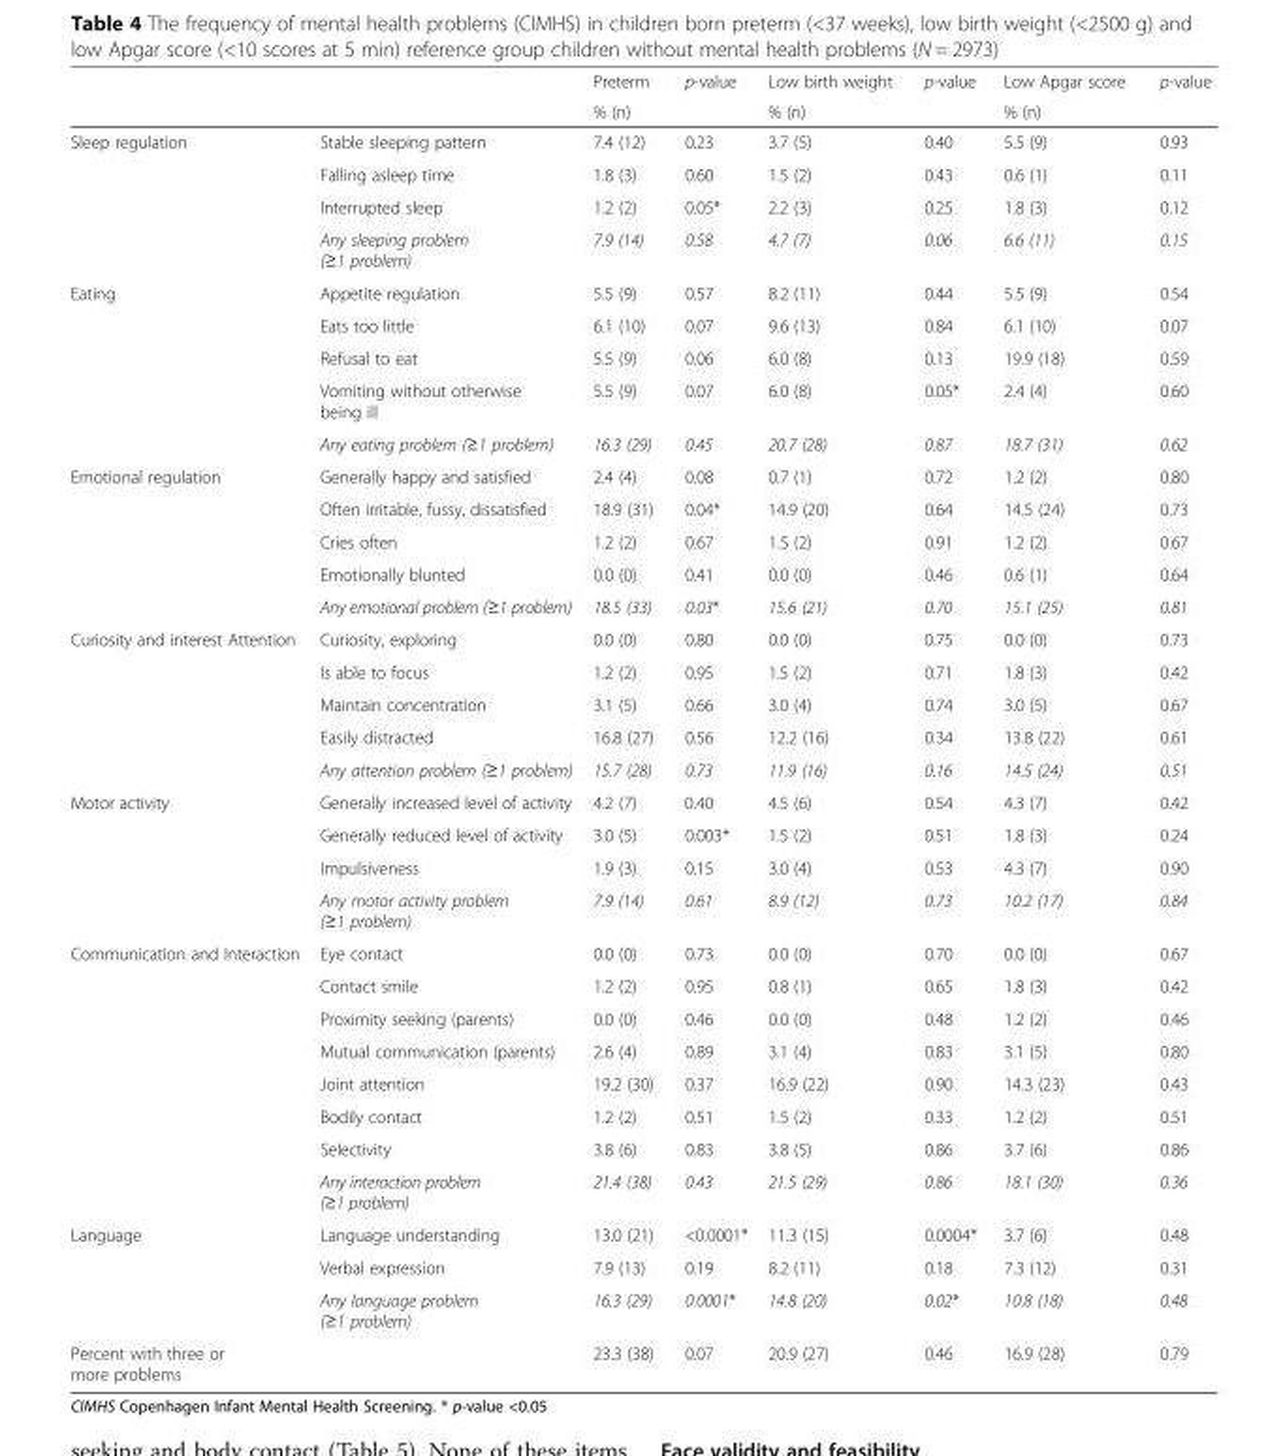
<table><thead><tr><td rowspan="2"></td><td rowspan="2"></td><td rowspan="2">Preterm % (n)</td><td rowspan="2">p-value</td><td rowspan="2">Low birth weight % (n)</td><td rowspan="2">p-value</td><td rowspan="2">Low Apgar score % (n)</td><td rowspan="2">p-value</td></tr><tr></tr></thead><tbody><tr><td rowspan="4">Sleep regulation</td><td>Stable sleeping pattern</td><td>7.4 (12)</td><td>0.23</td><td>3.7 (5)</td><td>0.40</td><td>5.5 (9)</td><td>0.93</td></tr><tr><td>Falling asleep time</td><td>1.8 (3)</td><td>0.60</td><td>1.5 (2)</td><td>0.43</td><td>0.6 (1)</td><td>0.11</td></tr><tr><td>Interrupted sleep</td><td>1.2 (2)</td><td>0.05*</td><td>2.2 (3)</td><td>0.25</td><td>1.8 (3)</td><td>0.12</td></tr><tr><td>Any sleeping problem (≥1 problem)</td><td>7.9 (14)</td><td>0.58</td><td>4.7 (7)</td><td>0.06</td><td>6.6 (11)</td><td>0.15</td></tr><tr><td rowspan="5">Eating</td><td>Appetite regulation</td><td>5.5 (9)</td><td>0.57</td><td>8.2 (11)</td><td>0.44</td><td>5.5 (9)</td><td>0.54</td></tr><tr><td>Eats too little</td><td>6.1 (10)</td><td>0.07</td><td>9.6 (13)</td><td>0.84</td><td>6.1 (10)</td><td>0.07</td></tr><tr><td>Refusal to eat</td><td>5.5 (9)</td><td>0.06</td><td>6.0 (8)</td><td>0.13</td><td>19.9 (18)</td><td>0.59</td></tr><tr><td>Vomiting without otherwise being ill</td><td>5.5 (9)</td><td>0.07</td><td>6.0 (8)</td><td>0.05*</td><td>2.4 (4)</td><td>0.60</td></tr><tr><td>Any eating problem (≥1 problem)</td><td>16.3 (29)</td><td>0.45</td><td>20.7 (28)</td><td>0.87</td><td>18.7 (31)</td><td>0.62</td></tr><tr><td rowspan="5">Emotional regulation</td><td>Generally happy and satisfied</td><td>2.4 (4)</td><td>0.08</td><td>0.7 (1)</td><td>0.72</td><td>1.2 (2)</td><td>0.80</td></tr><tr><td>Often irritable, fussy, dissatisfied</td><td>18.9 (31)</td><td>0.04*</td><td>14.9 (20)</td><td>0.64</td><td>14.5 (24)</td><td>0.73</td></tr><tr><td>Cries often</td><td>1.2 (2)</td><td>0.67</td><td>1.5 (2)</td><td>0.91</td><td>1.2 (2)</td><td>0.67</td></tr><tr><td>Emotionally blunted</td><td>0.0 (0)</td><td>0.41</td><td>0.0 (0)</td><td>0.46</td><td>0.6 (1)</td><td>0.64</td></tr><tr><td>Any emotional problem (≥1 problem)</td><td>18.5 (33)</td><td>0.03*</td><td>15.6 (21)</td><td>0.70</td><td>15.1 (25)</td><td>0.81</td></tr><tr><td rowspan="5">Curiosity and interest Attention</td><td>Curiosity, exploring</td><td>0.0 (0)</td><td>0.80</td><td>0.0 (0)</td><td>0.75</td><td>0.0 (0)</td><td>0.73</td></tr><tr><td>Is able to focus</td><td>1.2 (2)</td><td>0.95</td><td>1.5 (2)</td><td>0.71</td><td>1.8 (3)</td><td>0.42</td></tr><tr><td>Maintain concentration</td><td>3.1 (5)</td><td>0.66</td><td>3.0 (4)</td><td>0.74</td><td>3.0 (5)</td><td>0.67</td></tr><tr><td>Easily distracted</td><td>16.8 (27)</td><td>0.56</td><td>12.2 (16)</td><td>0.34</td><td>13.8 (22)</td><td>0.61</td></tr><tr><td>Any attention problem (≥1 problem)</td><td>15.7 (28)</td><td>0.73</td><td>11.9 (16)</td><td>0.16</td><td>14.5 (24)</td><td>0.51</td></tr><tr><td rowspan="4">Motor activity</td><td>Generally increased level of activity</td><td>4.2 (7)</td><td>0.40</td><td>4.5 (6)</td><td>0.54</td><td>4.3 (7)</td><td>0.42</td></tr><tr><td>Generally reduced level of activity</td><td>3.0 (5)</td><td>0.003*</td><td>1.5 (2)</td><td>0.51</td><td>1.8 (3)</td><td>0.24</td></tr><tr><td>Impulsiveness</td><td>1.9 (3)</td><td>0.15</td><td>3.0 (4)</td><td>0.53</td><td>4.3 (7)</td><td>0.90</td></tr><tr><td>Any motor activity problem (≥1 problem)</td><td>7.9 (14)</td><td>0.61</td><td>8.9 (12)</td><td>0.73</td><td>10.2 (17)</td><td>0.84</td></tr><tr><td rowspan="8">Communication and Interaction</td><td>Eye contact</td><td>0.0 (0)</td><td>0.73</td><td>0.0 (0)</td><td>0.70</td><td>0.0 (0)</td><td>0.67</td></tr><tr><td>Contact smile</td><td>1.2 (2)</td><td>0.95</td><td>0.8 (1)</td><td>0.65</td><td>1.8 (3)</td><td>0.42</td></tr><tr><td>Proximity seeking (parents)</td><td>0.0 (0)</td><td>0.46</td><td>0.0 (0)</td><td>0.48</td><td>1.2 (2)</td><td>0.46</td></tr><tr><td>Mutual communication (parents)</td><td>2.6 (4)</td><td>0.89</td><td>3.1 (4)</td><td>0.83</td><td>3.1 (5)</td><td>0.80</td></tr><tr><td>Joint attention</td><td>19.2 (30)</td><td>0.37</td><td>16.9 (22)</td><td>0.90</td><td>14.3 (23)</td><td>0.43</td></tr><tr><td>Bodily contact</td><td>1.2 (2)</td><td>0.51</td><td>1.5 (2)</td><td>0.33</td><td>1.2 (2)</td><td>0.51</td></tr><tr><td>Selectivity</td><td>3.8 (6)</td><td>0.83</td><td>3.8 (5)</td><td>0.86</td><td>3.7 (6)</td><td>0.86</td></tr><tr><td>Any interaction problem (≥1 problem)</td><td>21.4 (38)</td><td>0.43</td><td>21.5 (29)</td><td>0.86</td><td>18.1 (30)</td><td>0.36</td></tr><tr><td rowspan="3">Language</td><td>Language understanding</td><td>13.0 (21)</td><td>&lt;0.0001*</td><td>11.3 (15)</td><td>0.0004*</td><td>3.7 (6)</td><td>0.48</td></tr><tr><td>Verbal expression</td><td>7.9 (13)</td><td>0.19</td><td>8.2 (11)</td><td>0.18</td><td>7.3 (12)</td><td>0.31</td></tr><tr><td>Any language problem (≥1 problem)</td><td>16.3 (29)</td><td>0.0001*</td><td>14.8 (20)</td><td>0.02*</td><td>10.8 (18)</td><td>0.48</td></tr><tr><td>Percent with three or more problems</td><td></td><td>23.3 (38)</td><td>0.07</td><td>20.9 (27)</td><td>0.46</td><td>16.9 (28)</td><td>0.79</td></tr></tbody></table>